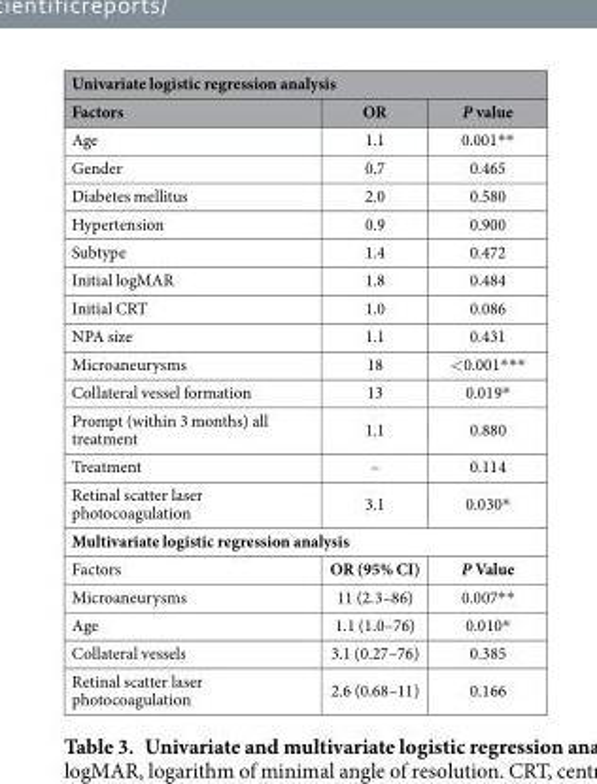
<table><thead><tr><td colspan="3">Univariate logistic regression analysis</td></tr><tr><td>Factors</td><td>OR</td><td>P value</td></tr></thead><tbody><tr><td>Age</td><td>1.1</td><td>0.001* *</td></tr><tr><td>Gender</td><td>0.7</td><td>0.465</td></tr><tr><td>Diabetes mellitus</td><td>2.0</td><td>0.580</td></tr><tr><td>Hypertension</td><td>0.9</td><td>0.900</td></tr><tr><td>Subtype</td><td>1.4</td><td>0.472</td></tr><tr><td>Initial logMAR</td><td>1.8</td><td>0.484</td></tr><tr><td>Initial CRT</td><td>1.0</td><td>0.086</td></tr><tr><td>NPA size</td><td>1.1</td><td>0.431</td></tr><tr><td>Microaneurysms</td><td>18</td><td>&lt; 0.001* * *</td></tr><tr><td>Collateral vessel formation</td><td>13</td><td>0.019*</td></tr><tr><td>Prompt (within 3 months) all treatment</td><td>1.1</td><td>0.880</td></tr><tr><td>Treatment</td><td>–</td><td>0.114</td></tr><tr><td>Retinal scatter laser photocoagulation</td><td>3.1</td><td>0.030*</td></tr><tr><td colspan="3">Multivariate logistic regression analysis</td></tr><tr><td>Factors</td><td>OR (95% CI)</td><td>P Value</td></tr><tr><td>Microaneurysms</td><td>11 (2.3–86)</td><td>0.007* *</td></tr><tr><td>Age</td><td>1.1 (1.0–76)</td><td>0.010*</td></tr><tr><td>Collateral vessels</td><td>3.1 (0.27–76)</td><td>0.385</td></tr><tr><td>Retinal scatter laser photocoagulation</td><td>2.6 (0.68–11)</td><td>0.166</td></tr></tbody></table>